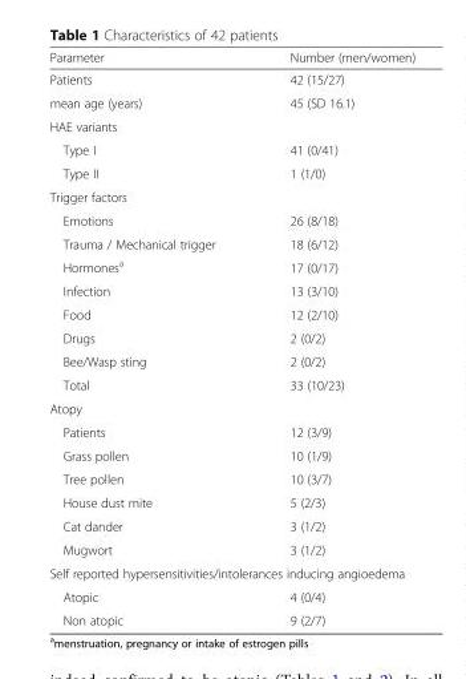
<table><thead><tr><td>Parameter</td><td>Number (men/women)</td></tr></thead><tbody><tr><td>Patients</td><td>42 (15/27)</td></tr><tr><td>mean age (years)</td><td>45 (SD 16.1)</td></tr><tr><td colspan="2">HAE variants</td></tr><tr><td>Type I</td><td>41 (0/41)</td></tr><tr><td>Type II</td><td>1 (1/0)</td></tr><tr><td colspan="2">Trigger factors</td></tr><tr><td>Emotions</td><td>26 (8/18)</td></tr><tr><td>Trauma / Mechanical trigger</td><td>18 (6/12)</td></tr><tr><td>Hormones<sup>a</sup></td><td>17 (0/17)</td></tr><tr><td>Infection</td><td>13 (3/10)</td></tr><tr><td>Food</td><td>12 (2/10)</td></tr><tr><td>Drugs</td><td>2 (0/2)</td></tr><tr><td>Bee/Wasp sting</td><td>2 (0/2)</td></tr><tr><td>Total</td><td>33 (10/23)</td></tr><tr><td colspan="2">Atopy</td></tr><tr><td>Patients</td><td>12 (3/9)</td></tr><tr><td>Grass pollen</td><td>10 (1/9)</td></tr><tr><td>Tree pollen</td><td>10 (3/7)</td></tr><tr><td>House dust mite</td><td>5 (2/3)</td></tr><tr><td>Cat dander</td><td>3 (1/2)</td></tr><tr><td>Mugwort</td><td>3 (1/2)</td></tr><tr><td colspan="2">Self reported hypersensitivities/intolerances inducing angioedema</td></tr><tr><td>Atopic</td><td>4 (0/4)</td></tr><tr><td>Non atopic</td><td>9 (2/7)</td></tr></tbody></table>